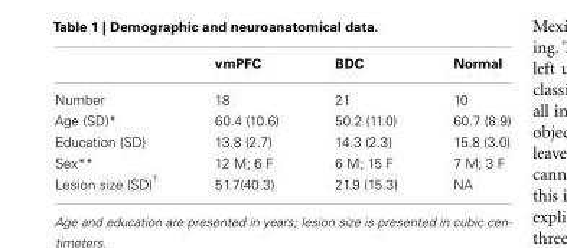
<table><thead><tr><td></td><td>vmPFC</td><td>BDC</td><td>Normal</td></tr></thead><tbody><tr><td>Number</td><td>18</td><td>21</td><td>10</td></tr><tr><td>Age (SD)*</td><td>60.4 (10.6)</td><td>50.2 (11.0)</td><td>60.7 (8.9)</td></tr><tr><td>Education (SD)</td><td>13.8 (2.7)</td><td>14.3 (2.3)</td><td>15.8 (3.0)</td></tr><tr><td>Sex**</td><td>12 M; 6 F</td><td>6 M; 15 F</td><td>7 M; 3 F</td></tr><tr><td>Lesion size (SD) <sup>†</sup></td><td>51.7(40.3)</td><td>21.9 (15.3)</td><td>NA</td></tr></tbody></table>